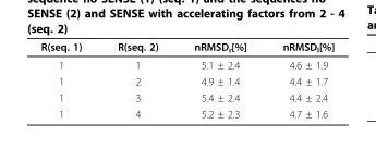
<table><thead><tr><td>R(seq. 1)</td><td>R(seq. 2)</td><td>nRMSD<sub>r</sub>[%]</td><td>nRMSD<sub>l</sub>[%]</td></tr></thead><tbody><tr><td>1</td><td>1</td><td>5.1 ± 2.4</td><td>4.6 ± 1.9</td></tr><tr><td>1</td><td>2</td><td>4.9 ± 1.4</td><td>4.4 ± 1.7</td></tr><tr><td>1</td><td>3</td><td>5.4 ± 2.4</td><td>4.4 ± 2.4</td></tr><tr><td>1</td><td>4</td><td>5.2 ± 2.3</td><td>4.7 ± 1.6</td></tr></tbody></table>